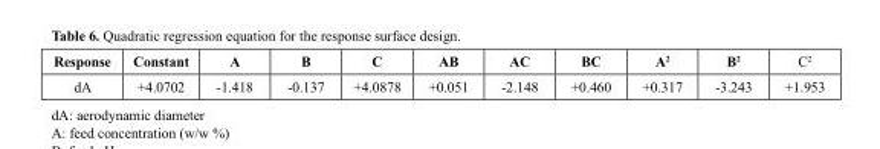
<table><thead><tr><td>Response</td><td>Constant</td><td>A</td><td>B</td><td>C</td><td>AB</td><td>AC</td><td>BC</td><td>A<sup>2</sup></td><td>B<sup>2</sup></td><td>C<sup>2</sup></td></tr></thead><tbody><tr><td>dA</td><td>+4.0702</td><td>-1.418</td><td>-0.137</td><td>+4.0878</td><td>+0.051</td><td>-2.148</td><td>+0.460</td><td>+0.317</td><td>-3.243</td><td>+1.953</td></tr></tbody></table>